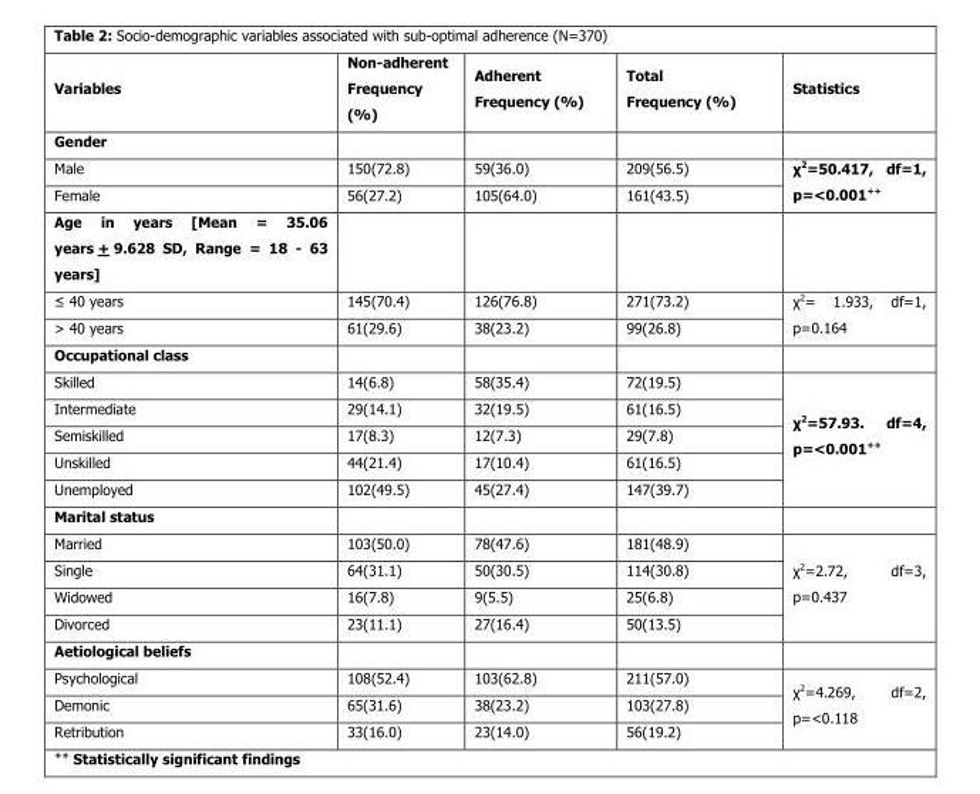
<table><thead><tr><td>Variables</td><td>Non-adherent Frequency (%)</td><td>Adherent Frequency (%)</td><td>Total Frequency (%)</td><td>Statistics</td></tr></thead><tbody><tr><td colspan="5">Gender</td></tr><tr><td>Male</td><td>150(72.8)</td><td>59(36.0)</td><td>209(56.5)</td><td rowspan="2">χ<sup>2</sup>=50.417, df=1, p=&lt;0.001++</td></tr><tr><td>Female</td><td>56(27.2)</td><td>105(64.0)</td><td>161(43.5)</td></tr><tr><td colspan="5">Age in years [Mean = 35.06 years + 9.628 SD, Range = 18 - 63 years]</td></tr><tr><td>≤ 40 years</td><td>145(70.4)</td><td>126(76.8)</td><td>271(73.2)</td><td rowspan="2">χ<sup>2</sup>= 1.933, df=1, p=0.164</td></tr><tr><td>˃ 40 years</td><td>61(29.6)</td><td>38(23.2)</td><td>99(26.8)</td></tr><tr><td colspan="5">Occupational class</td></tr><tr><td>Skilled</td><td>14(6.8)</td><td>58(35.4)</td><td>72(19.5)</td><td rowspan="5">χ<sup>2</sup>=57.93. df=4, p=&lt;0.001++</td></tr><tr><td>Intermediate</td><td>29(14.1)</td><td>32(19.5)</td><td>61(16.5)</td></tr><tr><td>Semiskilled</td><td>17(8.3)</td><td>12(7.3)</td><td>29(7.8)</td></tr><tr><td>Unskilled</td><td>44(21.4)</td><td>17(10.4)</td><td>61(16.5)</td></tr><tr><td>Unemployed</td><td>102(49.5)</td><td>45(27.4)</td><td>147(39.7)</td></tr><tr><td colspan="5">Marital status</td></tr><tr><td>Married</td><td>103(50.0)</td><td>78(47.6)</td><td>181(48.9)</td><td rowspan="4">χ<sup>2</sup>=2.72, df=3, p=0.437</td></tr><tr><td>Single</td><td>64(31.1)</td><td>50(30.5)</td><td>114(30.8)</td></tr><tr><td>Widowed</td><td>16(7.8)</td><td>9(5.5)</td><td>25(6.8)</td></tr><tr><td>Divorced</td><td>23(11.1)</td><td>27(16.4)</td><td>50(13.5)</td></tr><tr><td colspan="5">Aetiological beliefs</td></tr><tr><td>Psychological</td><td>108(52.4)</td><td>103(62.8)</td><td>211(57.0)</td><td rowspan="3">χ<sup>2</sup>=4.269, df=2, p=&lt;0.118</td></tr><tr><td>Demonic</td><td>65(31.6)</td><td>38(23.2)</td><td>103(27.8)</td></tr><tr><td>Retribution</td><td>33(16.0)</td><td>23(14.0)</td><td>56(19.2)</td></tr></tbody></table>